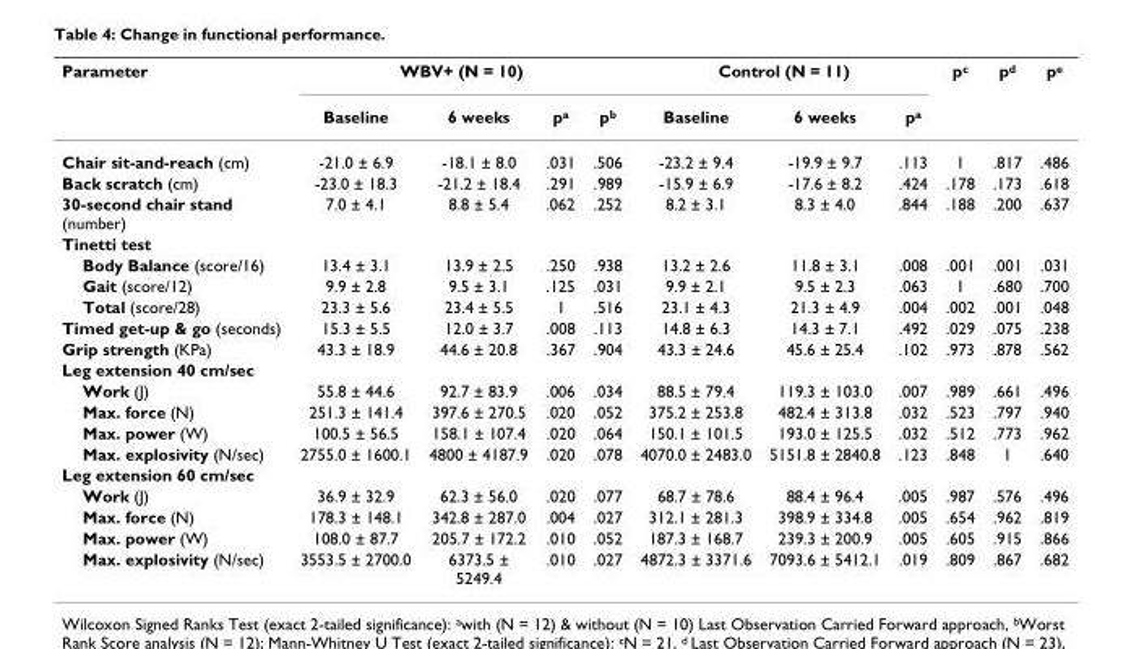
<table><thead><tr><td rowspan="2">Parameter</td><td colspan="4">WBV+ (N = 10)</td><td colspan="3">Control (N = 11)</td><td rowspan="2">p<sup>c</sup></td><td rowspan="2">p<sup>d</sup></td><td rowspan="2">p<sup>e</sup></td></tr><tr><td>Baseline</td><td>6 weeks</td><td>p<sup>a</sup></td><td>p<sup>b</sup></td><td>Baseline</td><td>6 weeks</td><td>p<sup>a</sup></td></tr></thead><tbody><tr><td>Chair sit-and-reach (cm)</td><td>-21.0 ± 6.9</td><td>-18.1 ± 8.0</td><td>.031</td><td>.506</td><td>-23.2 ± 9.4</td><td>-19.9 ± 9.7</td><td>.113</td><td>1</td><td>.817</td><td>.486</td></tr><tr><td>Back scratch (cm)</td><td>-23.0 ± 18.3</td><td>-21.2 ± 18.4</td><td>.291</td><td>.989</td><td>-15.9 ± 6.9</td><td>-17.6 ± 8.2</td><td>.424</td><td>.178</td><td>.173</td><td>.618</td></tr><tr><td>30-second chair stand (number)</td><td>7.0 ± 4.1</td><td>8.8 ± 5.4</td><td>.062</td><td>.252</td><td>8.2 ± 3.1</td><td>8.3 ± 4.0</td><td>.844</td><td>.188</td><td>.200</td><td>.637</td></tr><tr><td colspan="11">Tinetti test</td></tr><tr><td>Body Balance (score/16)</td><td>13.4 ± 3.1</td><td>13.9 ± 2.5</td><td>.250</td><td>.938</td><td>13.2 ± 2.6</td><td>11.8 ± 3.1</td><td>.008</td><td>.001</td><td>.001</td><td>.031</td></tr><tr><td>Gait (score/12)</td><td>9.9 ± 2.8</td><td>9.5 ± 3.1</td><td>.125</td><td>.031</td><td>9.9 ± 2.1</td><td>9.5 ± 2.3</td><td>.063</td><td>1</td><td>.680</td><td>.700</td></tr><tr><td>Total (score/28)</td><td>23.3 ± 5.6</td><td>23.4 ± 5.5</td><td>1</td><td>.516</td><td>23.1 ± 4.3</td><td>21.3 ± 4.9</td><td>.004</td><td>.002</td><td>.001</td><td>.048</td></tr><tr><td>Timed get-up &amp; go (seconds)</td><td>15.3 ± 5.5</td><td>12.0 ± 3.7</td><td>.008</td><td>.113</td><td>14.8 ± 6.3</td><td>14.3 ± 7.1</td><td>.492</td><td>.029</td><td>.075</td><td>.238</td></tr><tr><td>Grip strength (KPa)</td><td>43.3 ± 18.9</td><td>44.6 ± 20.8</td><td>.367</td><td>.904</td><td>43.3 ± 24.6</td><td>45.6 ± 25.4</td><td>.102</td><td>.973</td><td>.878</td><td>.562</td></tr><tr><td colspan="11">Leg extension 40 cm/sec</td></tr><tr><td>Work (J)</td><td>55.8 ± 44.6</td><td>92.7 ± 83.9</td><td>.006</td><td>.034</td><td>88.5 ± 79.4</td><td>119.3 ± 103.0</td><td>.007</td><td>.989</td><td>.661</td><td>.496</td></tr><tr><td>Max. force (N)</td><td>251.3 ± 141.4</td><td>397.6 ± 270.5</td><td>.020</td><td>.052</td><td>375.2 ± 253.8</td><td>482.4 ± 313.8</td><td>.032</td><td>.523</td><td>.797</td><td>.940</td></tr><tr><td>Max. power (W)</td><td>100.5 ± 56.5</td><td>158.1 ± 107.4</td><td>.020</td><td>.064</td><td>150.1 ± 101.5</td><td>193.0 ± 125.5</td><td>.032</td><td>.512</td><td>.773</td><td>.962</td></tr><tr><td>Max. explosivity (N/sec)</td><td>2755.0 ± 1600.1</td><td>4800 ± 4187.9</td><td>.020</td><td>.078</td><td>4070.0 ± 2483.0</td><td>5151.8 ± 2840.8</td><td>.123</td><td>.848</td><td>1</td><td>.640</td></tr><tr><td colspan="11">Leg extension 60 cm/sec</td></tr><tr><td>Work (J)</td><td>36.9 ± 32.9</td><td>62.3 ± 56.0</td><td>.020</td><td>.077</td><td>68.7 ± 78.6</td><td>88.4 ± 96.4</td><td>.005</td><td>.987</td><td>.576</td><td>.496</td></tr><tr><td>Max. force (N)</td><td>178.3 ± 148.1</td><td>342.8 ± 287.0</td><td>.004</td><td>.027</td><td>312.1 ± 281.3</td><td>398.9 ± 334.8</td><td>.005</td><td>.654</td><td>.962</td><td>.819</td></tr><tr><td>Max. power (W)</td><td>108.0 ± 87.7</td><td>205.7 ± 172.2</td><td>.010</td><td>.052</td><td>187.3 ± 168.7</td><td>239.3 ± 200.9</td><td>.005</td><td>.605</td><td>.915</td><td>.866</td></tr><tr><td>Max. explosivity (N/sec)</td><td>3553.5 ± 2700.0</td><td>6373.5 ± 5249.4</td><td>.010</td><td>.027</td><td>4872.3 ± 3371.6</td><td>7093.6 ± 5412.1</td><td>.019</td><td>.809</td><td>.867</td><td>.682</td></tr></tbody></table>